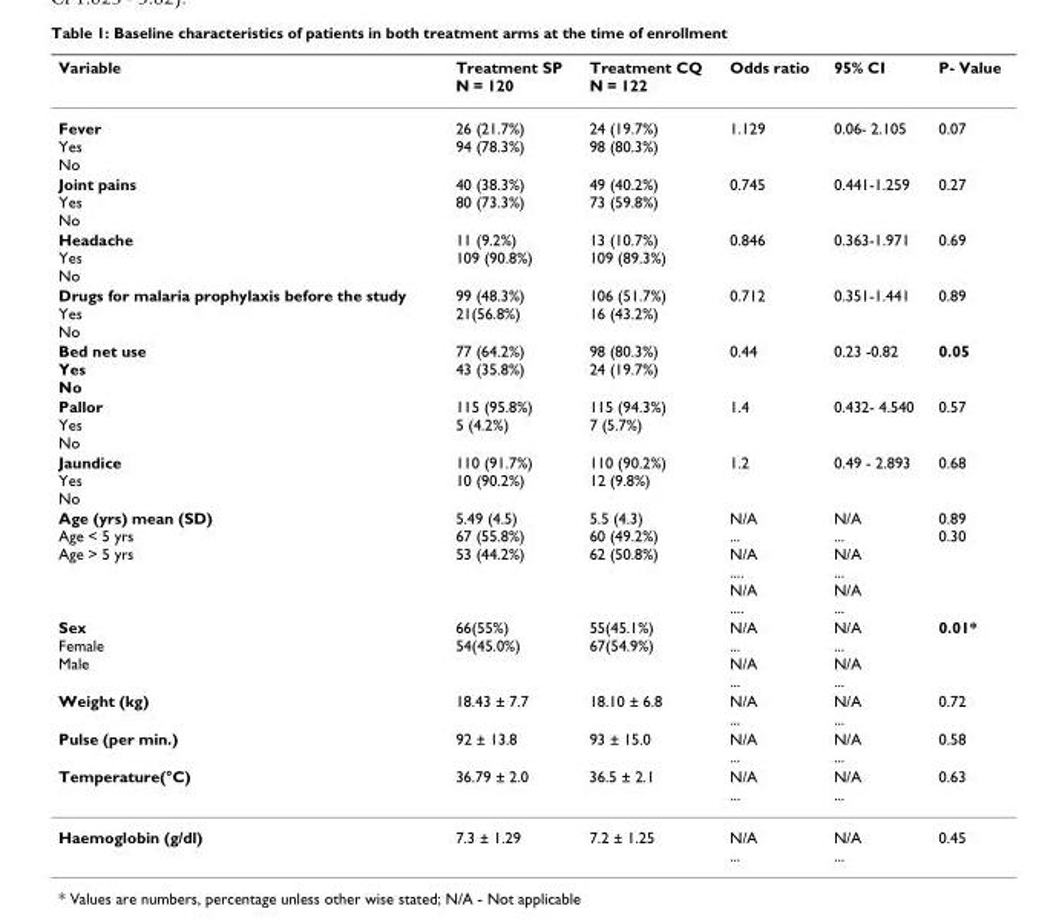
<table><thead><tr><td>Variable</td><td>Treatment SP N = 120</td><td>Treatment CQ N = 122</td><td>Odds ratio</td><td>95% CI</td><td>P- Value</td></tr></thead><tbody><tr><td>Fever Yes No</td><td>26 (21.7%) 94 (78.3%)</td><td>24 (19.7%) 98 (80.3%)</td><td>1.129</td><td>0.06- 2.105</td><td>0.07</td></tr><tr><td>Joint pains Yes No</td><td>40 (38.3%) 80 (73.3%)</td><td>49 (40.2%) 73 (59.8%)</td><td>0.745</td><td>0.441-1.259</td><td>0.27</td></tr><tr><td>Headache Yes No</td><td>11 (9.2%) 109 (90.8%)</td><td>13 (10.7%) 109 (89.3%)</td><td>0.846</td><td>0.363-1.971</td><td>0.69</td></tr><tr><td>Drugs for malaria prophylaxis before the study Yes No</td><td>99 (48.3%) 21(56.8%)</td><td>106 (51.7%) 16 (43.2%)</td><td>0.712</td><td>0.351-1.441</td><td>0.89</td></tr><tr><td>Bed net use Yes No</td><td>77 (64.2%) 43 (35.8%)</td><td>98 (80.3%) 24 (19.7%)</td><td>0.44</td><td>0.23 -0.82</td><td>0.05</td></tr><tr><td>Pallor Yes No</td><td>115 (95.8%) 5 (4.2%)</td><td>115 (94.3%) 7 (5.7%)</td><td>1.4</td><td>0.432- 4.540</td><td>0.57</td></tr><tr><td>Jaundice Yes No</td><td>110 (91.7%) 10 (90.2%)</td><td>110 (90.2%) 12 (9.8%)</td><td>1.2</td><td>0.49 - 2.893</td><td>0.68</td></tr><tr><td>Age (yrs) mean (SD) Age &lt; 5 yrs Age &gt; 5 yrs</td><td>5.49 (4.5) 67 (55.8%) 53 (44.2%)</td><td>5.5 (4.3) 60 (49.2%) 62 (50.8%)</td><td>N/A ... N/A .... N/A ....</td><td>N/A ... N/A ... N/A ...</td><td>0.89 0.30</td></tr><tr><td>Sex Female Male</td><td>66(55%) 54(45.0%)</td><td>55(45.1%) 67(54.9%)</td><td>N/A ... N/A ...</td><td>N/A ... N/A ...</td><td>0.01*</td></tr><tr><td>Weight (kg)</td><td>18.43 ± 7.7</td><td>18.10 ± 6.8</td><td>N/A ...</td><td>N/A ...</td><td>0.72</td></tr><tr><td>Pulse (per min.)</td><td>92 ± 13.8</td><td>93 ± 15.0</td><td>N/A ...</td><td>N/A ...</td><td>0.58</td></tr><tr><td>Temperature(°C)</td><td>36.79 ± 2.0</td><td>36.5 ± 2.1</td><td>N/A ...</td><td>N/A ...</td><td>0.63</td></tr><tr><td>Haemoglobin (g/dl)</td><td>7.3 ± 1.29</td><td>7.2 ± 1.25</td><td>N/A ...</td><td>N/A ...</td><td>0.45</td></tr></tbody></table>